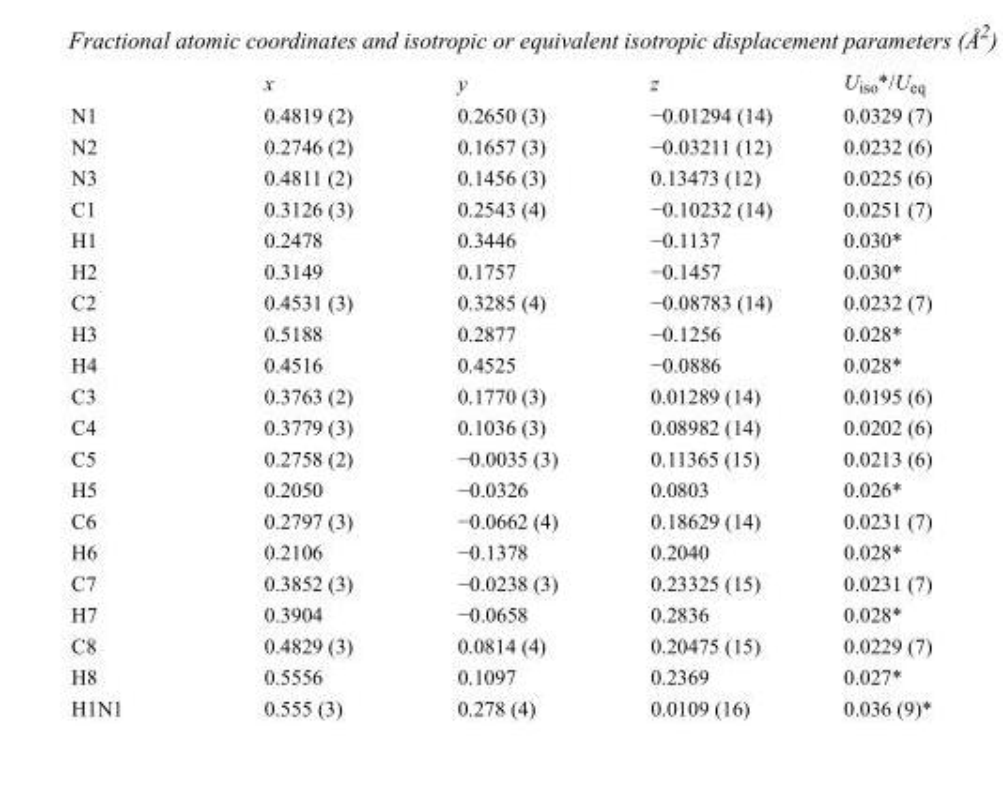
<table><thead><tr><td></td><td>x</td><td>y</td><td>z</td><td>U<sub>iso</sub>*/U<sub>eq</sub></td></tr></thead><tbody><tr><td>N1</td><td>0.4819 (2)</td><td>0.2650 (3)</td><td>−0.01294 (14)</td><td>0.0329 (7)</td></tr><tr><td>N2</td><td>0.2746 (2)</td><td>0.1657 (3)</td><td>−0.03211 (12)</td><td>0.0232 (6)</td></tr><tr><td>N3</td><td>0.4811 (2)</td><td>0.1456 (3)</td><td>0.13473 (12)</td><td>0.0225 (6)</td></tr><tr><td>C1</td><td>0.3126 (3)</td><td>0.2543 (4)</td><td>−0.10232 (14)</td><td>0.0251 (7)</td></tr><tr><td>H1</td><td>0.2478</td><td>0.3446</td><td>−0.1137</td><td>0.030*</td></tr><tr><td>H2</td><td>0.3149</td><td>0.1757</td><td>−0.1457</td><td>0.030*</td></tr><tr><td>C2</td><td>0.4531 (3)</td><td>0.3285 (4)</td><td>−0.08783 (14)</td><td>0.0232 (7)</td></tr><tr><td>H3</td><td>0.5188</td><td>0.2877</td><td>−0.1256</td><td>0.028*</td></tr><tr><td>H4</td><td>0.4516</td><td>0.4525</td><td>−0.0886</td><td>0.028*</td></tr><tr><td>C3</td><td>0.3763 (2)</td><td>0.1770 (3)</td><td>0.01289 (14)</td><td>0.0195 (6)</td></tr><tr><td>C4</td><td>0.3779 (3)</td><td>0.1036 (3)</td><td>0.08982 (14)</td><td>0.0202 (6)</td></tr><tr><td>C5</td><td>0.2758 (2)</td><td>−0.0035 (3)</td><td>0.11365 (15)</td><td>0.0213 (6)</td></tr><tr><td>H5</td><td>0.2050</td><td>−0.0326</td><td>0.0803</td><td>0.026*</td></tr><tr><td>C6</td><td>0.2797 (3)</td><td>−0.0662 (4)</td><td>0.18629 (14)</td><td>0.0231 (7)</td></tr><tr><td>H6</td><td>0.2106</td><td>−0.1378</td><td>0.2040</td><td>0.028*</td></tr><tr><td>C7</td><td>0.3852 (3)</td><td>−0.0238 (3)</td><td>0.23325 (15)</td><td>0.0231 (7)</td></tr><tr><td>H7</td><td>0.3904</td><td>−0.0658</td><td>0.2836</td><td>0.028*</td></tr><tr><td>C8</td><td>0.4829 (3)</td><td>0.0814 (4)</td><td>0.20475 (15)</td><td>0.0229 (7)</td></tr><tr><td>H8</td><td>0.5556</td><td>0.1097</td><td>0.2369</td><td>0.027*</td></tr><tr><td>H1N1</td><td>0.555 (3)</td><td>0.278 (4)</td><td>0.0109 (16)</td><td>0.036 (9)*</td></tr></tbody></table>